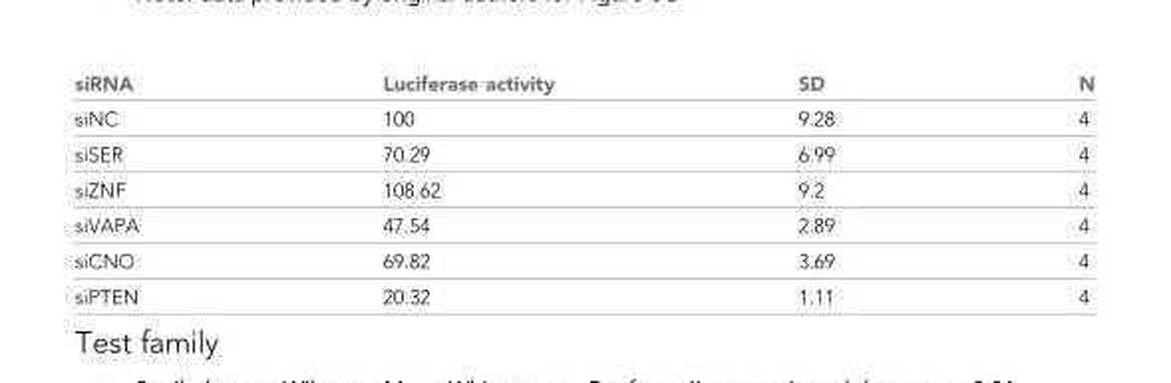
<table><thead><tr><td>siRNA</td><td>Luciferase activity</td><td>SD</td><td>N</td></tr></thead><tbody><tr><td>siNC</td><td>100</td><td>9.28</td><td>4</td></tr><tr><td>siSER</td><td>70.29</td><td>6.99</td><td>4</td></tr><tr><td>siZNF</td><td>108.62</td><td>9.2</td><td>4</td></tr><tr><td>siVAPA</td><td>47.54</td><td>2.89</td><td>4</td></tr><tr><td>siCNO</td><td>69.82</td><td>3.69</td><td>4</td></tr><tr><td>siPTEN</td><td>20.32</td><td>1.11</td><td>4</td></tr></tbody></table>